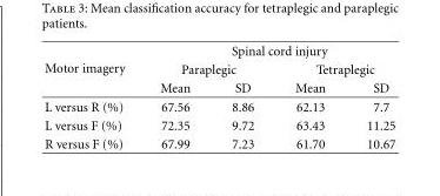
<table><thead><tr><td rowspan="3">Motor imagery</td><td colspan="4">Spinal cord injury</td></tr><tr><td colspan="2">Paraplegic</td><td colspan="2">Tetraplegic</td></tr><tr><td>Mean</td><td>SD</td><td>Mean</td><td>SD</td></tr></thead><tbody><tr><td>L versus R (%)</td><td>67.56</td><td>8.86</td><td>62.13</td><td>7.7</td></tr><tr><td>L versus F (%)</td><td>72.35</td><td>9.72</td><td>63.43</td><td>11.25</td></tr><tr><td>R versus F (%)</td><td>67.99</td><td>7.23</td><td>61.70</td><td>10.67</td></tr></tbody></table>